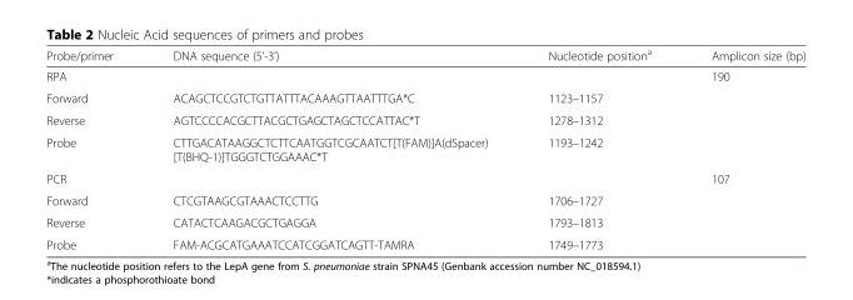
<table><thead><tr><td>Probe/primer</td><td>DNA sequence (5’-3’)</td><td>Nucleotide position<sup>a</sup></td><td>Amplicon size (bp)</td></tr></thead><tbody><tr><td>RPA</td><td></td><td></td><td>190</td></tr><tr><td>Forward</td><td>ACAGCTCCGTCTGTTATTTACAAAGTTAATTTGA*C</td><td>1123–1157</td><td></td></tr><tr><td>Reverse</td><td>AGTCCCCACGCTTACGCTGAGCTAGCTCCATTAC*T</td><td>1278–1312</td><td></td></tr><tr><td>Probe</td><td>CTTGACATAAGGCTCTTCAATGGTCGCAATCT[T(FAM)]A(dSpacer) [T(BHQ-1)]TGGGTCTGGAAAC*T</td><td>1193–1242</td><td></td></tr><tr><td>PCR</td><td></td><td></td><td>107</td></tr><tr><td>Forward</td><td>CTCGTAAGCGTAAACTCCTTG</td><td>1706–1727</td><td></td></tr><tr><td>Reverse</td><td>CATACTCAAGACGCTGAGGA</td><td>1793–1813</td><td></td></tr><tr><td>Probe</td><td>FAM-ACGCATGAAATCCATCGGATCAGTT-TAMRA</td><td>1749–1773</td><td></td></tr></tbody></table>